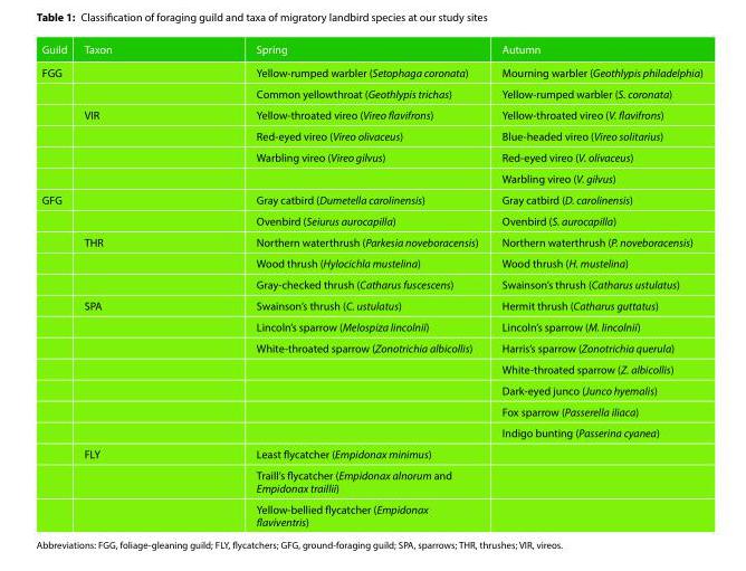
<table><thead><tr><td>Guild</td><td>Taxon</td><td>Spring</td><td>Autumn</td></tr></thead><tbody><tr><td rowspan="6">FGG</td><td></td><td>Yellow-rumped warbler (Setophaga coronata)</td><td>Mourning warbler (Geothlypis philadelphia)</td></tr><tr><td></td><td>Common yellowthroat (Geothlypis trichas)</td><td>Yellow-rumped warbler (S. coronata)</td></tr><tr><td>VIR</td><td>Yellow-throated vireo (Vireo flavifrons)</td><td>Yellow-throated vireo (V. flavifrons)</td></tr><tr><td></td><td>Red-eyed vireo (Vireo olivaceus)</td><td>Blue-headed vireo (Vireo solitarius)</td></tr><tr><td></td><td>Warbling vireo (Vireo gilvus)</td><td>Red-eyed vireo (V. olivaceus)</td></tr><tr><td></td><td></td><td>Warbling vireo (V. gilvus)</td></tr><tr><td rowspan="15">GFG</td><td></td><td>Gray catbird (Dumetella carolinensis)</td><td>Gray catbird (D. carolinensis)</td></tr><tr><td></td><td>Ovenbird (Seiurus aurocapilla)</td><td>Ovenbird (S. aurocapilla)</td></tr><tr><td>THR</td><td>Northern waterthrush (Parkesia noveboracensis)</td><td>Northern waterthrush (P. noveboracensis)</td></tr><tr><td></td><td>Wood thrush (Hylocichla mustelina)</td><td>Wood thrush (H. mustelina)</td></tr><tr><td></td><td>Gray-checked thrush (Catharus fuscescens)</td><td>Swainson’s thrush (Catharus ustulatus)</td></tr><tr><td>SPA</td><td>Swainson’s thrush (C. ustulatus)</td><td>Hermit thrush (Catharus guttatus)</td></tr><tr><td></td><td>Lincoln’s sparrow (Melospiza lincolnii)</td><td>Lincoln’s sparrow (M. lincolnii)</td></tr><tr><td></td><td>White-throated sparrow (Zonotrichia albicollis)</td><td>Harris’s sparrow (Zonotrichia querula)</td></tr><tr><td></td><td></td><td>White-throated sparrow (Z. albicollis)</td></tr><tr><td></td><td></td><td>Dark-eyed junco (Junco hyemalis)</td></tr><tr><td></td><td></td><td>Fox sparrow (Passerella iliaca)</td></tr><tr><td></td><td></td><td>Indigo bunting (Passerina cyanea)</td></tr><tr><td>FLY</td><td>Least flycatcher (Empidonax minimus)</td><td></td></tr><tr><td></td><td>Traill’s flycatcher (Empidonax alnorum and Empidonax traillii)</td><td></td></tr><tr><td></td><td>Yellow-bellied flycatcher (Empidonax flaviventris)</td><td></td></tr></tbody></table>